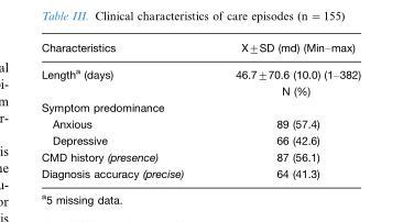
<table><thead><tr><td>Characteristics</td><td>X±SD (md) (Min–max)</td></tr></thead><tbody><tr><td rowspan="2">Length<sup>a</sup> (days)</td><td>46.7±70.6 (10.0) (1–382)</td></tr><tr><td>N (%)</td></tr><tr><td colspan="2">Symptom predominance</td></tr><tr><td>Anxious</td><td>89 (57.4)</td></tr><tr><td>Depressive</td><td>66 (42.6)</td></tr><tr><td>CMD history (presence)</td><td>87 (56.1)</td></tr><tr><td>Diagnosis accuracy (precise)</td><td>64 (41.3)</td></tr></tbody></table>